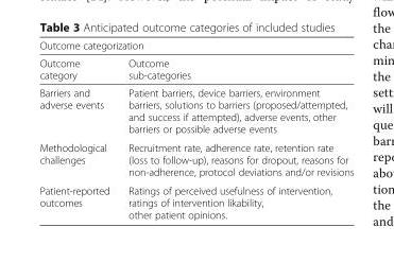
<table><thead><tr><td colspan="2">Outcome categorization</td></tr><tr><td>Outcome category</td><td>Outcome sub-categories</td></tr></thead><tbody><tr><td>Barriers and adverse events</td><td>Patient barriers, device barriers, environment barriers, solutions to barriers (proposed/attempted, and success if attempted), adverse events, other barriers or possible adverse events</td></tr><tr><td>Methodological challenges</td><td>Recruitment rate, adherence rate, retention rate (loss to follow-up), reasons for dropout, reasons for non-adherence, protocol deviations and/or revisions</td></tr><tr><td>Patient-reported outcomes</td><td>Ratings of perceived usefulness of intervention, ratings of intervention likability, other patient opinions.</td></tr></tbody></table>